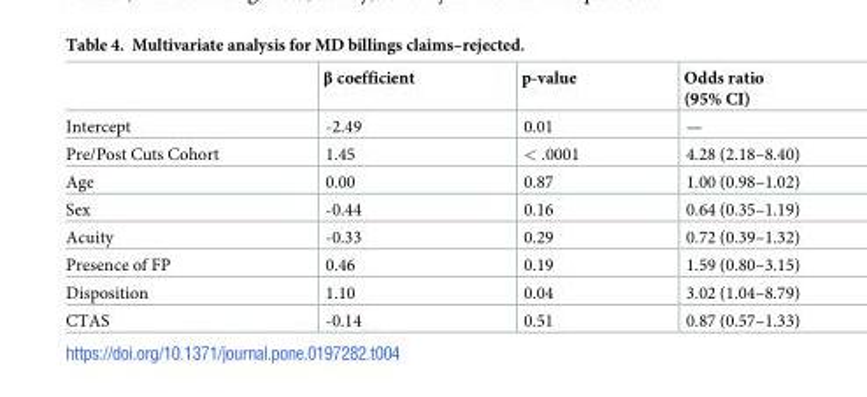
<table><thead><tr><td></td><td>β coefficient</td><td>p-value</td><td>Odds ratio (95% CI)</td></tr></thead><tbody><tr><td>Intercept</td><td>-2.49</td><td>0.01</td><td>—</td></tr><tr><td>Pre/Post Cuts Cohort</td><td>1.45</td><td>&lt; .0001</td><td>4.28 (2.18–8.40)</td></tr><tr><td>Age</td><td>0.00</td><td>0.87</td><td>1.00 (0.98–1.02)</td></tr><tr><td>Sex</td><td>-0.44</td><td>0.16</td><td>0.64 (0.35–1.19)</td></tr><tr><td>Acuity</td><td>-0.33</td><td>0.29</td><td>0.72 (0.39–1.32)</td></tr><tr><td>Presence of FP</td><td>0.46</td><td>0.19</td><td>1.59 (0.80–3.15)</td></tr><tr><td>Disposition</td><td>1.10</td><td>0.04</td><td>3.02 (1.04–8.79)</td></tr><tr><td>CTAS</td><td>-0.14</td><td>0.51</td><td>0.87 (0.57–1.33)</td></tr></tbody></table>